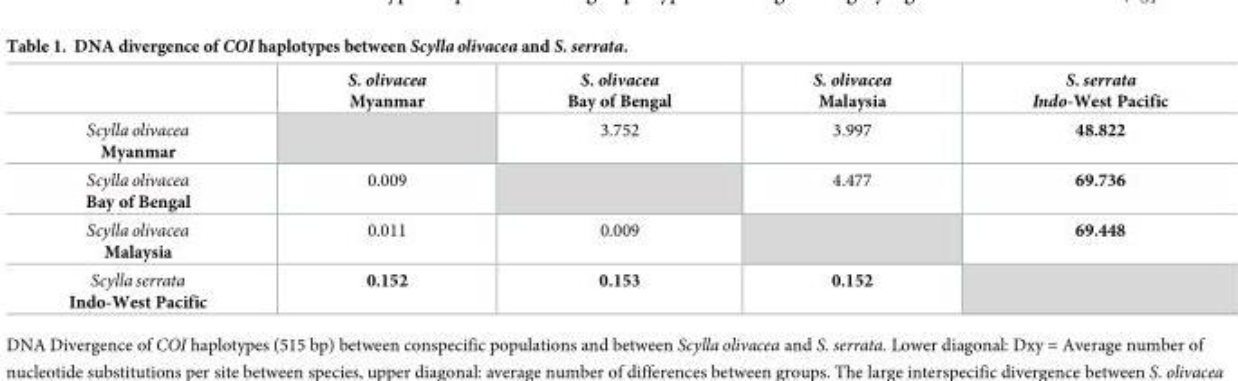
<table><thead><tr><td></td><td>S. olivacea Myanmar</td><td>S. olivacea Bay of Bengal</td><td>S. olivacea Malaysia</td><td>S. serrata Indo-West Pacific</td></tr></thead><tbody><tr><td>Scylla olivacea Myanmar</td><td></td><td>3.752</td><td>3.997</td><td>48.822</td></tr><tr><td>Scylla olivacea Bay of Bengal</td><td>0.009</td><td></td><td>4.477</td><td>69.736</td></tr><tr><td>Scylla olivacea Malaysia</td><td>0.011</td><td>0.009</td><td></td><td>69.448</td></tr><tr><td>Scylla serrata Indo-West Pacific</td><td>0.152</td><td>0.153</td><td>0.152</td><td></td></tr></tbody></table>